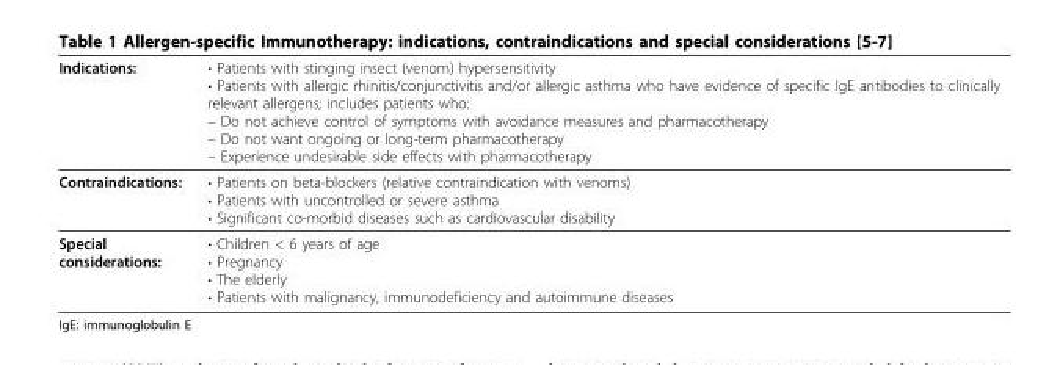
<table><thead><tr><td>Indications:</td><td>• Patients with stinging insect (venom) hypersensitivity • Patients with allergic rhinitis/conjunctivitis and/or allergic asthma who have evidence of specific IgE antibodies to clinically relevant allergens; includes patients who: – Do not achieve control of symptoms with avoidance measures and pharmacotherapy – Do not want ongoing or long-term pharmacotherapy – Experience undesirable side effects with pharmacotherapy</td></tr></thead><tbody><tr><td>Contraindications:</td><td>• Patients on beta-blockers (relative contraindication with venoms) • Patients with uncontrolled or severe asthma • Significant co-morbid diseases such as cardiovascular disability</td></tr><tr><td>Special considerations:</td><td>• Children &lt; 6 years of age • Pregnancy • The elderly • Patients with malignancy, immunodeficiency and autoimmune diseases</td></tr></tbody></table>